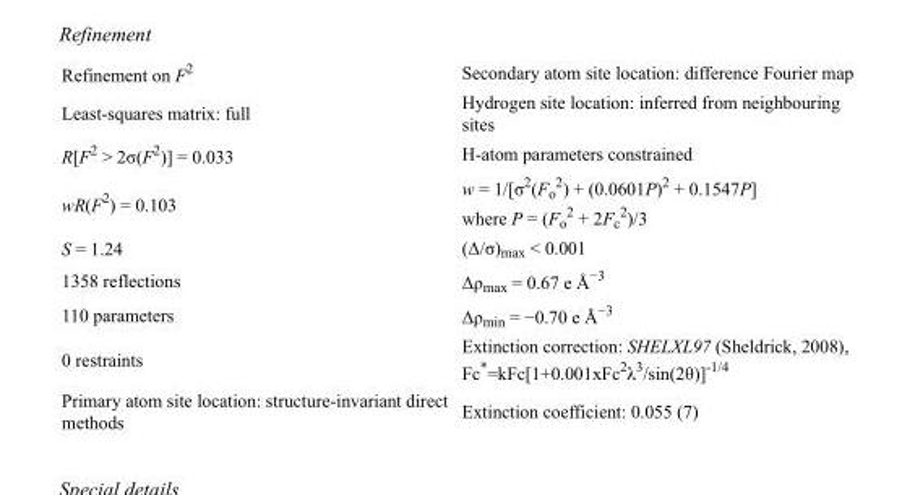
<table><tbody><tr><td>Refinement on F<sup>2</sup></td><td>Secondary atom site location: difference Fourier map</td></tr><tr><td>Least-squares matrix: full</td><td>Hydrogen site location: inferred from neighbouring sites</td></tr><tr><td>R[F<sup>2</sup> &gt; 2σ(F<sup>2</sup>)] = 0.033</td><td>H-atom parameters constrained</td></tr><tr><td>wR(F<sup>2</sup>) = 0.103</td><td>w = 1/[σ<sup>2</sup>(F<sub>o</sub> <sup>2</sup>) + (0.0601P)<sup>2</sup> + 0.1547P] where P = (F<sub>o</sub> <sup>2</sup> + 2F<sub>c</sub> <sup>2</sup>)/3</td></tr><tr><td>S = 1.24</td><td>(Δ/σ)<sub>max</sub> &lt; 0.001</td></tr><tr><td>1358 reflections</td><td>Δρ<sub>max</sub> = 0.67 e Å<sup>−3</sup></td></tr><tr><td>110 parameters</td><td>Δρ<sub>min</sub> = −0.70 e Å<sup>−3</sup></td></tr><tr><td>0 restraints</td><td>Extinction correction: SHELXL97 (Sheldrick, 2008), Fc*=kFc[1+0.001xFc<sup>2</sup>λ<sup>3</sup>/sin(2θ)]<sup>-1/4</sup></td></tr><tr><td>Primary atom site location: structure-invariant direct methods</td><td>Extinction coefficient: 0.055 (7)</td></tr></tbody></table>